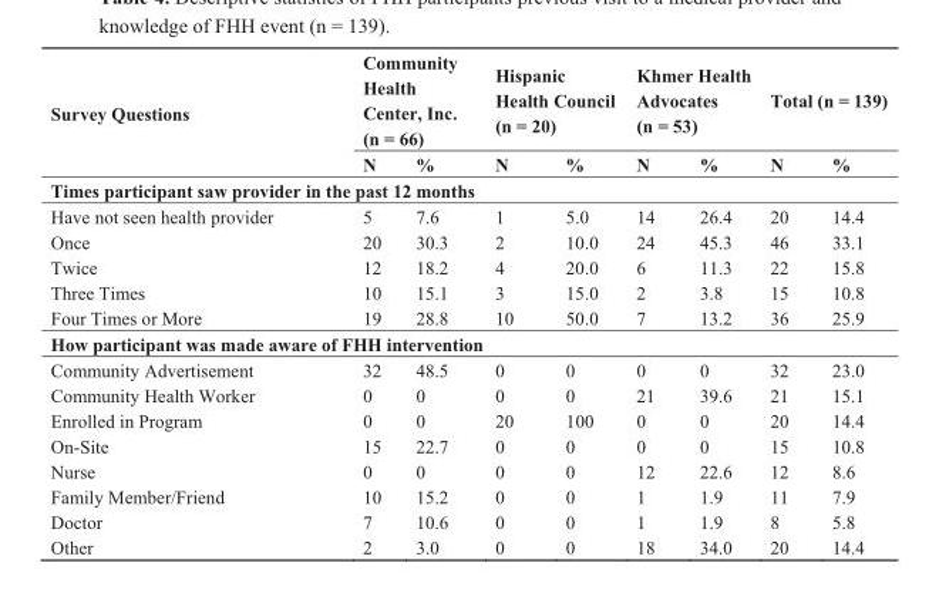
<table><thead><tr><td rowspan="2">Survey Questions</td><td colspan="2">Community Health Center, Inc. (n = 66)</td><td colspan="2">Hispanic Health Council (n = 20)</td><td colspan="2">Khmer Health Advocates (n = 53)</td><td colspan="2">Total (n = 139)</td></tr><tr><td>N</td><td>%</td><td>N</td><td>%</td><td>N</td><td>%</td><td>N</td><td>%</td></tr></thead><tbody><tr><td colspan="9">Times participant saw provider in the past 12 months</td></tr><tr><td>Have not seen health provider</td><td>5</td><td>7.6</td><td>1</td><td>5.0</td><td>14</td><td>26.4</td><td>20</td><td>14.4</td></tr><tr><td>Once</td><td>20</td><td>30.3</td><td>2</td><td>10.0</td><td>24</td><td>45.3</td><td>46</td><td>33.1</td></tr><tr><td>Twice</td><td>12</td><td>18.2</td><td>4</td><td>20.0</td><td>6</td><td>11.3</td><td>22</td><td>15.8</td></tr><tr><td>Three Times</td><td>10</td><td>15.1</td><td>3</td><td>15.0</td><td>2</td><td>3.8</td><td>15</td><td>10.8</td></tr><tr><td>Four Times or More</td><td>19</td><td>28.8</td><td>10</td><td>50.0</td><td>7</td><td>13.2</td><td>36</td><td>25.9</td></tr><tr><td colspan="9">How participant was made aware of FHH intervention</td></tr><tr><td>Community Advertisement</td><td>32</td><td>48.5</td><td>0</td><td>0</td><td>0</td><td>0</td><td>32</td><td>23.0</td></tr><tr><td>Community Health Worker</td><td>0</td><td>0</td><td>0</td><td>0</td><td>21</td><td>39.6</td><td>21</td><td>15.1</td></tr><tr><td>Enrolled in Program</td><td>0</td><td>0</td><td>20</td><td>100</td><td>0</td><td>0</td><td>20</td><td>14.4</td></tr><tr><td>On-Site</td><td>15</td><td>22.7</td><td>0</td><td>0</td><td>0</td><td>0</td><td>15</td><td>10.8</td></tr><tr><td>Nurse</td><td>0</td><td>0</td><td>0</td><td>0</td><td>12</td><td>22.6</td><td>12</td><td>8.6</td></tr><tr><td>Family Member/Friend</td><td>10</td><td>15.2</td><td>0</td><td>0</td><td>1</td><td>1.9</td><td>11</td><td>7.9</td></tr><tr><td>Doctor</td><td>7</td><td>10.6</td><td>0</td><td>0</td><td>1</td><td>1.9</td><td>8</td><td>5.8</td></tr><tr><td>Other</td><td>2</td><td>3.0</td><td>0</td><td>0</td><td>18</td><td>34.0</td><td>20</td><td>14.4</td></tr></tbody></table>